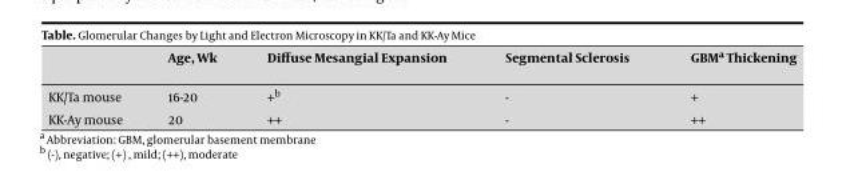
<table><thead><tr><td></td><td>Age, Wk</td><td>Diffuse Mesangial Expansion</td><td>Segmental Sclerosis</td><td>GBM<sup>a</sup> Thickening</td></tr></thead><tbody><tr><td>KK/Ta mouse</td><td>16-20</td><td>+<sup>b</sup></td><td>-</td><td>+</td></tr><tr><td>KK-Ay mouse</td><td>20</td><td>++</td><td>-</td><td>++</td></tr></tbody></table>